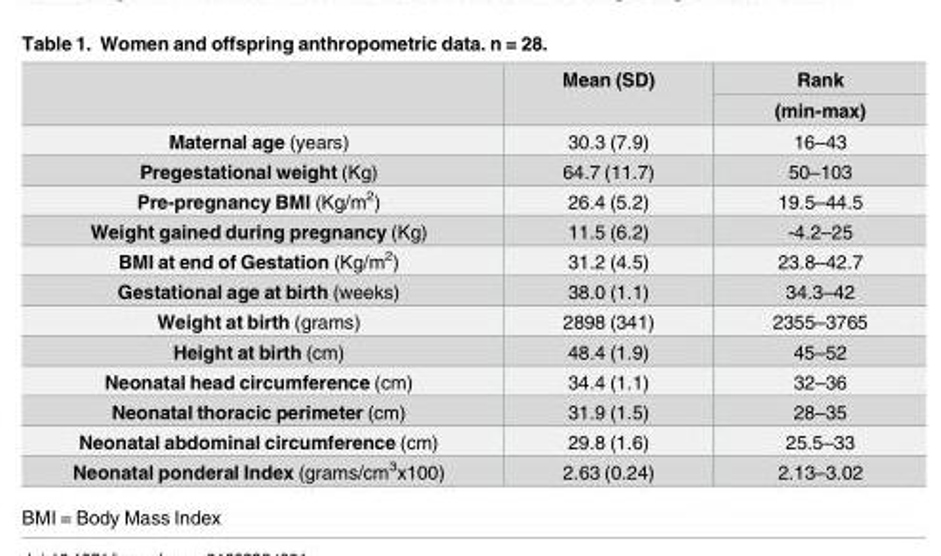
<table><thead><tr><td rowspan="2"></td><td rowspan="2">Mean (SD)</td><td rowspan="2">Rank (min-max)</td></tr><tr></tr></thead><tbody><tr><td>Maternal age (years)</td><td>30.3 (7.9)</td><td>16–43</td></tr><tr><td>Pregestational weight (Kg)</td><td>64.7 (11.7)</td><td>50–103</td></tr><tr><td>Pre-pregnancy BMI (Kg/m<sup>2</sup>)</td><td>26.4 (5.2)</td><td>19.5–44.5</td></tr><tr><td>Weight gained during pregnancy (Kg)</td><td>11.5 (6.2)</td><td>-4.2–25</td></tr><tr><td>BMI at end of Gestation (Kg/m<sup>2</sup>)</td><td>31.2 (4.5)</td><td>23.8–42.7</td></tr><tr><td>Gestational age at birth (weeks)</td><td>38.0 (1.1)</td><td>34.3–42</td></tr><tr><td>Weight at birth (grams)</td><td>2898 (341)</td><td>2355–3765</td></tr><tr><td>Height at birth (cm)</td><td>48.4 (1.9)</td><td>45–52</td></tr><tr><td>Neonatal head circumference (cm)</td><td>34.4 (1.1)</td><td>32–36</td></tr><tr><td>Neonatal thoracic perimeter (cm)</td><td>31.9 (1.5)</td><td>28–35</td></tr><tr><td>Neonatal abdominal circumference (cm)</td><td>29.8 (1.6)</td><td>25.5–33</td></tr><tr><td>Neonatal ponderal Index (grams/cm<sup>3</sup>x100)</td><td>2.63 (0.24)</td><td>2.13–3.02</td></tr></tbody></table>